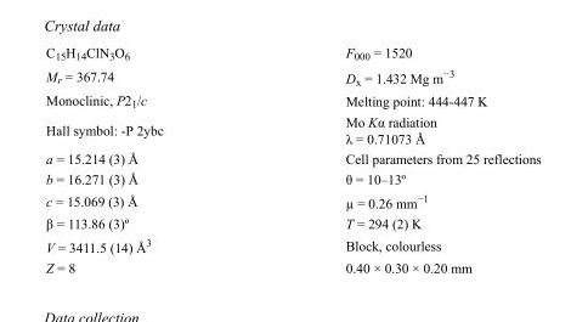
<table><tbody><tr><td>C<sub>15</sub>H<sub>14</sub>ClN<sub>3</sub>O<sub>6</sub></td><td>F<sub>000</sub> = 1520</td></tr><tr><td>M<sub>r</sub> = 367.74</td><td>D<sub>x</sub> = 1.432 Mg m<sup>−3</sup></td></tr><tr><td>Monoclinic, P2<sub>1</sub>/c</td><td>Melting point= 444-447 K</td></tr><tr><td>Hall symbol: -P 2ybc</td><td>Mo Kα radiation λ = 0.71073 Å</td></tr><tr><td>a = 15.214 (3) Å</td><td>Cell parameters from 25 reflections</td></tr><tr><td>b = 16.271 (3) Å</td><td>θ = 10–13º</td></tr><tr><td>c = 15.069 (3) Å</td><td>µ = 0.26 mm<sup>−1</sup></td></tr><tr><td>β = 113.86 (3)º</td><td>T = 294 (2) K</td></tr><tr><td>V = 3411.5 (14) Å<sup>3</sup></td><td>Block, colourless</td></tr><tr><td>Z = 8</td><td>0.40 × 0.30 × 0.20 mm</td></tr></tbody></table>